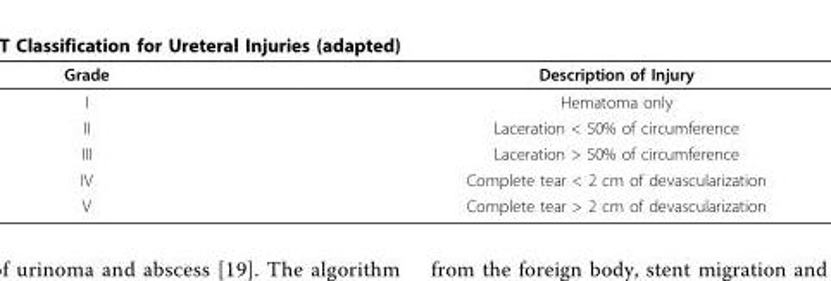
<table><thead><tr><td>Grade</td><td>Description of Injury</td></tr></thead><tbody><tr><td>I</td><td>Hematoma only</td></tr><tr><td>II</td><td>Laceration &lt; 50% of circumference</td></tr><tr><td>III</td><td>Laceration &gt; 50% of circumference</td></tr><tr><td>IV</td><td>Complete tear &lt; 2 cm of devascularization</td></tr><tr><td>V</td><td>Complete tear &gt; 2 cm of devascularization</td></tr></tbody></table>